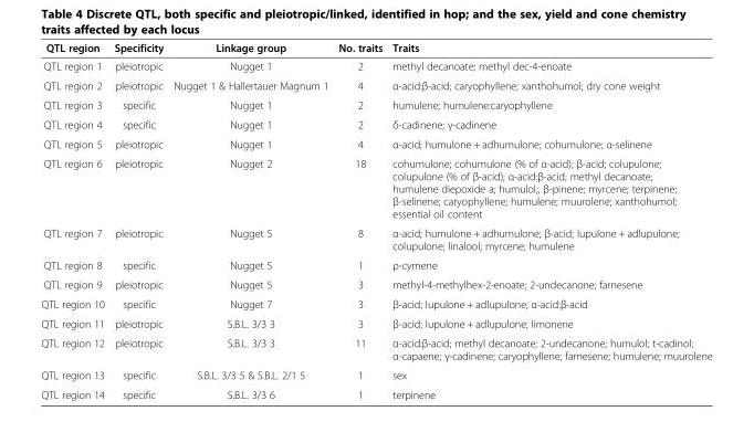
<table><thead><tr><td>QTL region</td><td>Specificity</td><td>Linkage group</td><td>No. traits</td><td>Traits</td></tr></thead><tbody><tr><td>QTL region 1</td><td>pleiotropic</td><td>Nugget 1</td><td>2</td><td>methyl decanoate; methyl dec-4-enoate</td></tr><tr><td>QTL region 2</td><td>pleiotropic</td><td>Nugget 1 &amp; Hallertauer Magnum 1</td><td>4</td><td>α-acid:β-acid; caryophyllene; xanthohumol; dry cone weight</td></tr><tr><td>QTL region 3</td><td>specific</td><td>Nugget 1</td><td>2</td><td>humulene; humulene:caryophyllene</td></tr><tr><td>QTL region 4</td><td>specific</td><td>Nugget 1</td><td>2</td><td>δ-cadinene; γ-cadinene</td></tr><tr><td>QTL region 5</td><td>pleiotropic</td><td>Nugget 1</td><td>4</td><td>α-acid; humulone + adhumulone; cohumulone; α-selinene</td></tr><tr><td>QTL region 6</td><td>pleiotropic</td><td>Nugget 2</td><td>18</td><td>cohumulone; cohumulone (% of α-acid); β-acid; colupulone; colupulone (% of β-acid); α-acid:β-acid; methyl decanoate; humulene diepoxide a; humulol;, β-pinene; myrcene; terpinene; β-selinene; caryophyllene; humulene; muurolene; xanthohumol; essential oil content</td></tr><tr><td>QTL region 7</td><td>pleiotropic</td><td>Nugget 5</td><td>8</td><td>α-acid; humulone + adhumulone; β-acid; lupulone + adlupulone; colupulone; linalool; myrcene; humulene</td></tr><tr><td>QTL region 8</td><td>specific</td><td>Nugget 5</td><td>1</td><td>ρ-cymene</td></tr><tr><td>QTL region 9</td><td>pleiotropic</td><td>Nugget 5</td><td>3</td><td>methyl-4-methylhex-2-enoate; 2-undecanone; farnesene</td></tr><tr><td>QTL region 10</td><td>specific</td><td>Nugget 7</td><td>3</td><td>β-acid; lupulone + adlupulone; α-acid:β-acid</td></tr><tr><td>QTL region 11</td><td>pleiotropic</td><td>S.B.L. 3/3 3</td><td>3</td><td>β-acid; lupulone + adlupulone; limonene</td></tr><tr><td>QTL region 12</td><td>pleiotropic</td><td>S.B.L. 3/3 3</td><td>11</td><td>α-acid:β-acid; methyl decanoate; 2-undecanone; humulol; t-cadinol; α-capaene; γ-cadinene; caryophyllene; farnesene; humulene; muurolene</td></tr><tr><td>QTL region 13</td><td>specific</td><td>S.B.L. 3/3 5 &amp; S.B.L. 2/1 5</td><td>1</td><td>sex</td></tr><tr><td>QTL region 14</td><td>specific</td><td>S.B.L. 3/3 6</td><td>1</td><td>terpinene</td></tr></tbody></table>